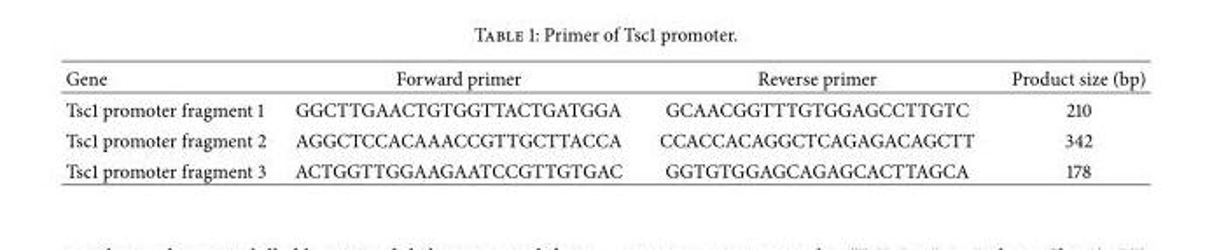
<table><thead><tr><td>Gene</td><td>Forward primer</td><td>Reverse primer</td><td>Product size (bp)</td></tr></thead><tbody><tr><td>Tsc1 promoter fragment 1</td><td>GGCTTGAACTGTGGTTACTGATGGA</td><td>GCAACGGTTTGTGGAGCCTTGTC</td><td>210</td></tr><tr><td>Tsc1 promoter fragment 2</td><td>AGGCTCCACAAACCGTTGCTTACCA</td><td>CCACCACAGGCTCAGAGACAGCTT</td><td>342</td></tr><tr><td>Tsc1 promoter fragment 3</td><td>ACTGGTTGGAAGAATCCGTTGTGAC</td><td>GGTGTGGAGCAGAGCACTTAGCA</td><td>178</td></tr></tbody></table>